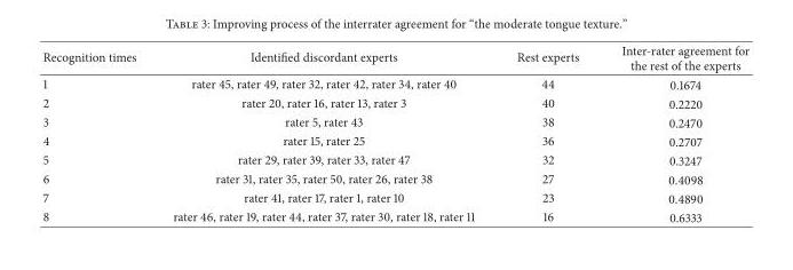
<table><thead><tr><td>Recognition times</td><td>Identified discordant experts</td><td>Rest experts</td><td>Inter-rater agreement for the rest of the experts</td></tr></thead><tbody><tr><td>1</td><td>rater 45, rater 49, rater 32, rater 42, rater 34, rater 40</td><td>44</td><td>0.1674</td></tr><tr><td>2</td><td>rater 20, rater 16, rater 13, rater 3</td><td>40</td><td>0.2220</td></tr><tr><td>3</td><td>rater 5, rater 43</td><td>38</td><td>0.2470</td></tr><tr><td>4</td><td>rater 15, rater 25</td><td>36</td><td>0.2707</td></tr><tr><td>5</td><td>rater 29, rater 39, rater 33, rater 47</td><td>32</td><td>0.3247</td></tr><tr><td>6</td><td>rater 31, rater 35, rater 50, rater 26, rater 38</td><td>27</td><td>0.4098</td></tr><tr><td>7</td><td>rater 41, rater 17, rater 1, rater 10</td><td>23</td><td>0.4890</td></tr><tr><td>8</td><td>rater 46, rater 19, rater 44, rater 37, rater 30, rater 18, rater 11</td><td>16</td><td>0.6333</td></tr></tbody></table>